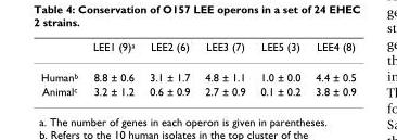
<table><thead><tr><td></td><td>LEE1 (9)<sup>a</sup></td><td>LEE2 (6)</td><td>LEE3 (7)</td><td>LEE5 (3)</td><td>LEE4 (8)</td></tr></thead><tbody><tr><td>Human<sup>b</sup></td><td>8.8 ± 0.6</td><td>3.1 ± 1.7</td><td>4.8 ± 1.1</td><td>1.0 ± 0.0</td><td>4.4 ± 0.5</td></tr><tr><td>Animal<sup>c</sup></td><td>3.2 ± 1.2</td><td>0.6 ± 0.9</td><td>2.7 ± 0.9</td><td>0.1 ± 0.2</td><td>3.8 ± 0.9</td></tr></tbody></table>